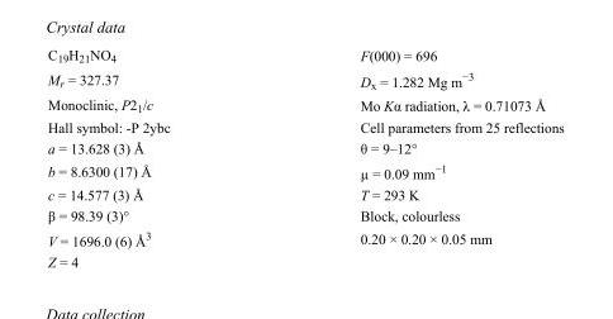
<table><tbody><tr><td>C<sub>19</sub>H<sub>21</sub>NO<sub>4</sub></td><td>F(000) = 696</td></tr><tr><td>M<sub>r</sub> = 327.37</td><td>D<sub>x</sub> = 1.282 Mg m<sup>−3</sup></td></tr><tr><td>Monoclinic, P2<sub>1</sub>/c</td><td>Mo Kα radiation, λ = 0.71073 Å</td></tr><tr><td>Hall symbol: -P 2ybc</td><td>Cell parameters from 25 reflections</td></tr><tr><td>a = 13.628 (3) Å</td><td>θ = 9–12°</td></tr><tr><td>b = 8.6300 (17) Å</td><td>µ = 0.09 mm<sup>−1</sup></td></tr><tr><td>c = 14.577 (3) Å</td><td>T = 293 K</td></tr><tr><td>β = 98.39 (3)°</td><td>Block, colourless</td></tr><tr><td>V = 1696.0 (6) Å<sup>3</sup></td><td>0.20 × 0.20 × 0.05 mm</td></tr><tr><td>Z = 4</td><td></td></tr></tbody></table>